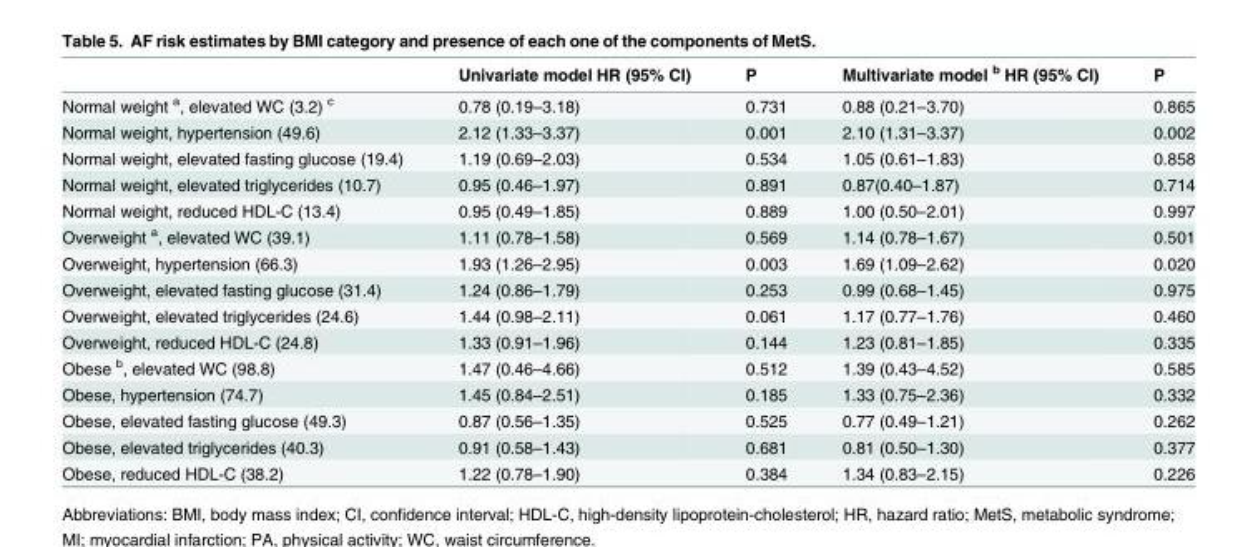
<table><thead><tr><td></td><td>Univariate model HR (95% CI)</td><td>P</td><td>Multivariate model <sup>b</sup> HR (95% CI)</td><td>P</td></tr></thead><tbody><tr><td>Normal weight <sup>a</sup>, elevated WC (3.2) <sup>c</sup></td><td>0.78 (0.19–3.18)</td><td>0.731</td><td>0.88 (0.21–3.70)</td><td>0.865</td></tr><tr><td>Normal weight, hypertension (49.6)</td><td>2.12 (1.33–3.37)</td><td>0.001</td><td>2.10 (1.31–3.37)</td><td>0.002</td></tr><tr><td>Normal weight, elevated fasting glucose (19.4)</td><td>1.19 (0.69–2.03)</td><td>0.534</td><td>1.05 (0.61–1.83)</td><td>0.858</td></tr><tr><td>Normal weight, elevated triglycerides (10.7)</td><td>0.95 (0.46–1.97)</td><td>0.891</td><td>0.87(0.40–1.87)</td><td>0.714</td></tr><tr><td>Normal weight, reduced HDL-C (13.4)</td><td>0.95 (0.49–1.85)</td><td>0.889</td><td>1.00 (0.50–2.01)</td><td>0.997</td></tr><tr><td>Overweight <sup>a</sup>, elevated WC (39.1)</td><td>1.11 (0.78–1.58)</td><td>0.569</td><td>1.14 (0.78–1.67)</td><td>0.501</td></tr><tr><td>Overweight, hypertension (66.3)</td><td>1.93 (1.26–2.95)</td><td>0.003</td><td>1.69 (1.09–2.62)</td><td>0.020</td></tr><tr><td>Overweight, elevated fasting glucose (31.4)</td><td>1.24 (0.86–1.79)</td><td>0.253</td><td>0.99 (0.68–1.45)</td><td>0.975</td></tr><tr><td>Overweight, elevated triglycerides (24.6)</td><td>1.44 (0.98–2.11)</td><td>0.061</td><td>1.17 (0.77–1.76)</td><td>0.460</td></tr><tr><td>Overweight, reduced HDL-C (24.8)</td><td>1.33 (0.91–1.96)</td><td>0.144</td><td>1.23 (0.81–1.85)</td><td>0.335</td></tr><tr><td>Obese <sup>b</sup>, elevated WC (98.8)</td><td>1.47 (0.46–4.66)</td><td>0.512</td><td>1.39 (0.43–4.52)</td><td>0.585</td></tr><tr><td>Obese, hypertension (74.7)</td><td>1.45 (0.84–2.51)</td><td>0.185</td><td>1.33 (0.75–2.36)</td><td>0.332</td></tr><tr><td>Obese, elevated fasting glucose (49.3)</td><td>0.87 (0.56–1.35)</td><td>0.525</td><td>0.77 (0.49–1.21)</td><td>0.262</td></tr><tr><td>Obese, elevated triglycerides (40.3)</td><td>0.91 (0.58–1.43)</td><td>0.681</td><td>0.81 (0.50–1.30)</td><td>0.377</td></tr><tr><td>Obese, reduced HDL-C (38.2)</td><td>1.22 (0.78–1.90)</td><td>0.384</td><td>1.34 (0.83–2.15)</td><td>0.226</td></tr></tbody></table>